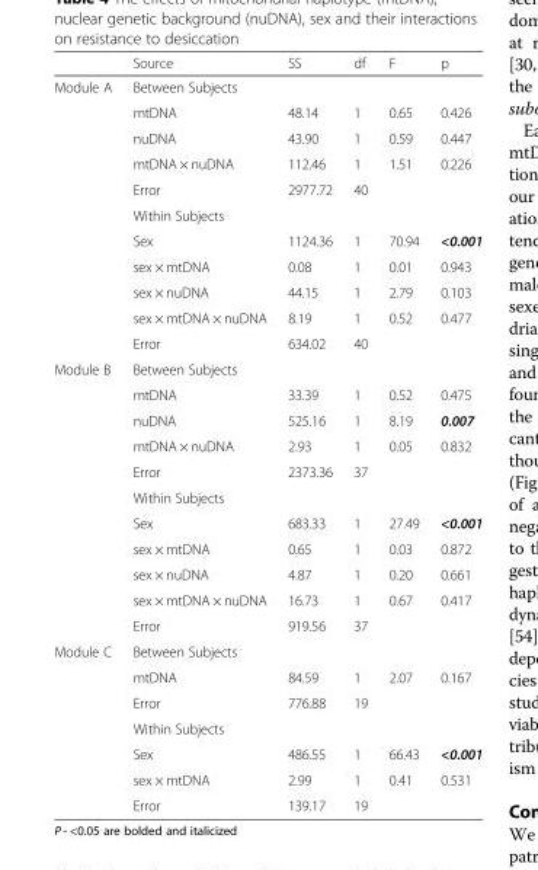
<table><thead><tr><td></td><td>Source</td><td>SS</td><td>df</td><td>F</td><td>p</td></tr></thead><tbody><tr><td rowspan="11">Module A</td><td colspan="5">Between Subjects</td></tr><tr><td>mtDNA</td><td>48.14</td><td>1</td><td>0.65</td><td>0.426</td></tr><tr><td>nuDNA</td><td>43.90</td><td>1</td><td>0.59</td><td>0.447</td></tr><tr><td>mtDNA × nuDNA</td><td>112.46</td><td>1</td><td>1.51</td><td>0.226</td></tr><tr><td>Error</td><td>2977.72</td><td>40</td><td></td><td></td></tr><tr><td colspan="5">Within Subjects</td></tr><tr><td>Sex</td><td>1124.36</td><td>1</td><td>70.94</td><td>&lt;0.001</td></tr><tr><td>sex × mtDNA</td><td>0.08</td><td>1</td><td>0.01</td><td>0.943</td></tr><tr><td>sex × nuDNA</td><td>44.15</td><td>1</td><td>2.79</td><td>0.103</td></tr><tr><td>sex × mtDNA × nuDNA</td><td>8.19</td><td>1</td><td>0.52</td><td>0.477</td></tr><tr><td>Error</td><td>634.02</td><td>40</td><td></td><td></td></tr><tr><td rowspan="11">Module B</td><td colspan="5">Between Subjects</td></tr><tr><td>mtDNA</td><td>33.39</td><td>1</td><td>0.52</td><td>0.475</td></tr><tr><td>nuDNA</td><td>525.16</td><td>1</td><td>8.19</td><td>0.007</td></tr><tr><td>mtDNA × nuDNA</td><td>2.93</td><td>1</td><td>0.05</td><td>0.832</td></tr><tr><td>Error</td><td>2373.36</td><td>37</td><td></td><td></td></tr><tr><td colspan="5">Within Subjects</td></tr><tr><td>Sex</td><td>683.33</td><td>1</td><td>27.49</td><td>&lt;0.001</td></tr><tr><td>sex × mtDNA</td><td>0.65</td><td>1</td><td>0.03</td><td>0.872</td></tr><tr><td>sex × nuDNA</td><td>4.87</td><td>1</td><td>0.20</td><td>0.661</td></tr><tr><td>sex × mtDNA × nuDNA</td><td>16.73</td><td>1</td><td>0.67</td><td>0.417</td></tr><tr><td>Error</td><td>919.56</td><td>37</td><td></td><td></td></tr><tr><td rowspan="7">Module C</td><td colspan="5">Between Subjects</td></tr><tr><td>mtDNA</td><td>84.59</td><td>1</td><td>2.07</td><td>0.167</td></tr><tr><td>Error</td><td>776.88</td><td>19</td><td></td><td></td></tr><tr><td colspan="5">Within Subjects</td></tr><tr><td>Sex</td><td>486.55</td><td>1</td><td>66.43</td><td>&lt;0.001</td></tr><tr><td>sex × mtDNA</td><td>2.99</td><td>1</td><td>0.41</td><td>0.531</td></tr><tr><td>Error</td><td>139.17</td><td>19</td><td></td><td></td></tr></tbody></table>